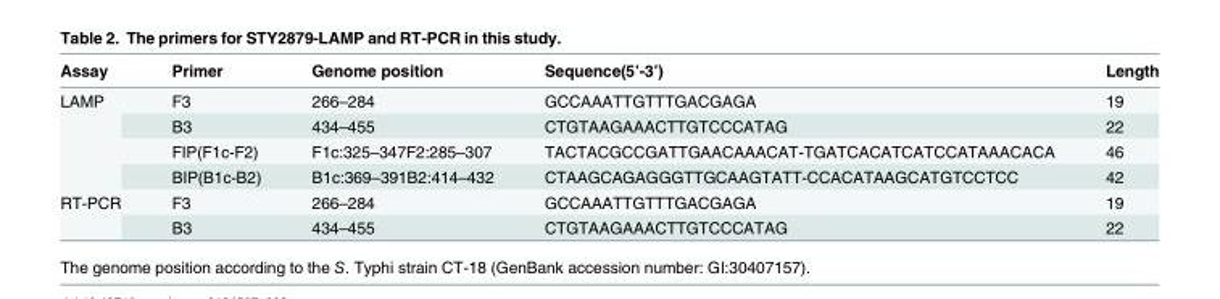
<table><thead><tr><td>Assay</td><td>Primer</td><td>Genome position</td><td>Sequence(5’-3’)</td><td>Length</td></tr></thead><tbody><tr><td rowspan="4">LAMP</td><td>F3</td><td>266–284</td><td>GCCAAATTGTTTGACGAGA</td><td>19</td></tr><tr><td>B3</td><td>434–455</td><td>CTGTAAGAAACTTGTCCCATAG</td><td>22</td></tr><tr><td>FIP(F1c-F2)</td><td>F1c:325–347F2:285–307</td><td>TACTACGCCGATTGAACAAACAT-TGATCACATCATCCATAAACACA</td><td>46</td></tr><tr><td>BIP(B1c-B2)</td><td>B1c:369–391B2:414–432</td><td>CTAAGCAGAGGGTTGCAAGTATT-CCACATAAGCATGTCCTCC</td><td>42</td></tr><tr><td rowspan="2">RT-PCR</td><td>F3</td><td>266–284</td><td>GCCAAATTGTTTGACGAGA</td><td>19</td></tr><tr><td>B3</td><td>434–455</td><td>CTGTAAGAAACTTGTCCCATAG</td><td>22</td></tr></tbody></table>